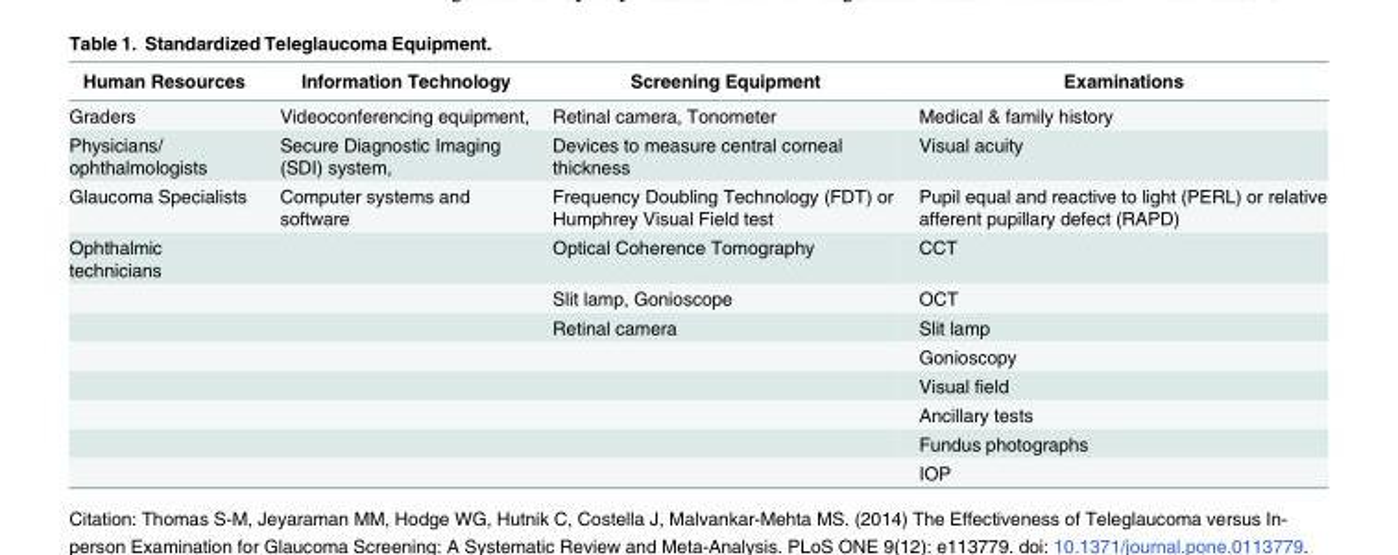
<table><thead><tr><td>Human Resources</td><td>Information Technology</td><td>Screening Equipment</td><td>Examinations</td></tr></thead><tbody><tr><td>Graders</td><td>Videoconferencing equipment,</td><td>Retinal camera, Tonometer</td><td>Medical &amp; family history</td></tr><tr><td>Physicians/ ophthalmologists</td><td>Secure Diagnostic Imaging (SDI) system,</td><td>Devices to measure central corneal thickness</td><td>Visual acuity</td></tr><tr><td>Glaucoma Specialists</td><td>Computer systems and software</td><td>Frequency Doubling Technology (FDT) or Humphrey Visual Field test</td><td>Pupil equal and reactive to light (PERL) or relative afferent pupillary defect (RAPD)</td></tr><tr><td rowspan="8">Ophthalmic technicians</td><td></td><td>Optical Coherence Tomography</td><td>CCT</td></tr><tr><td></td><td>Slit lamp, Gonioscope</td><td>OCT</td></tr><tr><td></td><td>Retinal camera</td><td>Slit lamp</td></tr><tr><td></td><td></td><td>Gonioscopy</td></tr><tr><td></td><td></td><td>Visual field</td></tr><tr><td></td><td></td><td>Ancillary tests</td></tr><tr><td></td><td></td><td>Fundus photographs</td></tr><tr><td></td><td></td><td>IOP</td></tr></tbody></table>